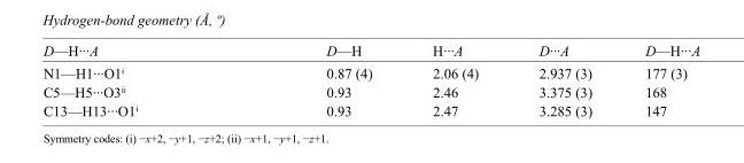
<table><tbody><tr><td>D—H···A</td><td>D—H</td><td>H···A</td><td>D···A</td><td>D—H···A</td></tr><tr><td>N1—H1···O1<sup>i</sup></td><td>0.87 (4)</td><td>2.06 (4)</td><td>2.937 (3)</td><td>177 (3)</td></tr><tr><td>C5—H5···O3<sup>ii</sup></td><td>0.93</td><td>2.46</td><td>3.375 (3)</td><td>168</td></tr><tr><td>C13—H13···O1<sup>i</sup></td><td>0.93</td><td>2.47</td><td>3.285 (3)</td><td>147</td></tr></tbody></table>